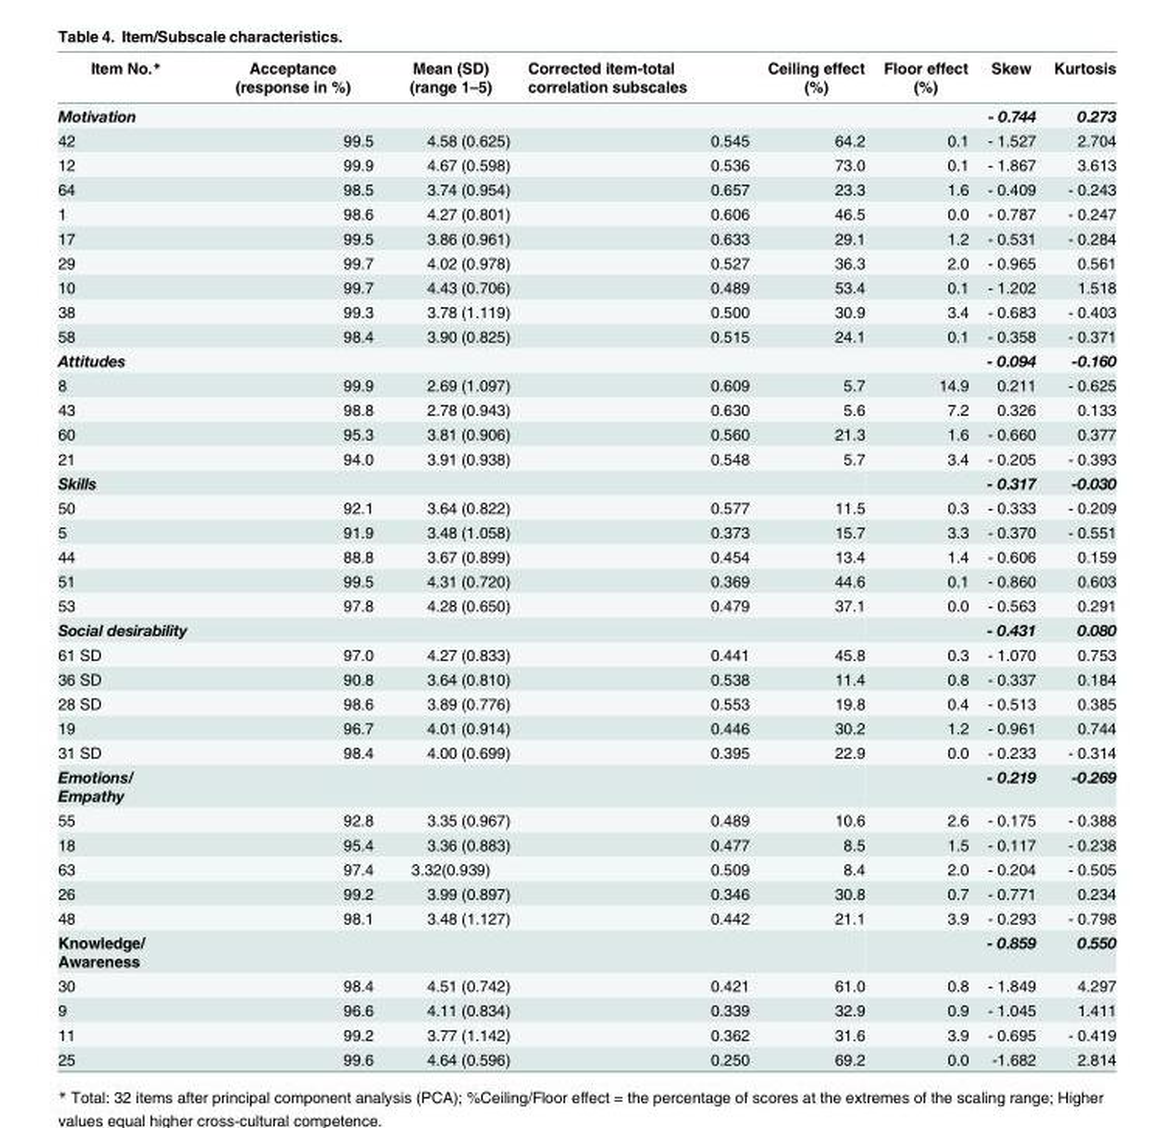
<table><thead><tr><td>Item No.*</td><td>Acceptance (response in %)</td><td>Mean (SD) (range 1–5)</td><td>Corrected item-total correlation subscales</td><td>Ceiling effect (%)</td><td>Floor effect (%)</td><td>Skew</td><td>Kurtosis</td></tr></thead><tbody><tr><td>Motivation</td><td></td><td></td><td></td><td></td><td></td><td>- 0.744</td><td>0.273</td></tr><tr><td>42</td><td>99.5</td><td>4.58 (0.625)</td><td>0.545</td><td>64.2</td><td>0.1</td><td>- 1.527</td><td>2.704</td></tr><tr><td>12</td><td>99.9</td><td>4.67 (0.598)</td><td>0.536</td><td>73.0</td><td>0.1</td><td>- 1.867</td><td>3.613</td></tr><tr><td>64</td><td>98.5</td><td>3.74 (0.954)</td><td>0.657</td><td>23.3</td><td>1.6</td><td>- 0.409</td><td>- 0.243</td></tr><tr><td>1</td><td>98.6</td><td>4.27 (0.801)</td><td>0.606</td><td>46.5</td><td>0.0</td><td>- 0.787</td><td>- 0.247</td></tr><tr><td>17</td><td>99.5</td><td>3.86 (0.961)</td><td>0.633</td><td>29.1</td><td>1.2</td><td>- 0.531</td><td>- 0.284</td></tr><tr><td>29</td><td>99.7</td><td>4.02 (0.978)</td><td>0.527</td><td>36.3</td><td>2.0</td><td>- 0.965</td><td>0.561</td></tr><tr><td>10</td><td>99.7</td><td>4.43 (0.706)</td><td>0.489</td><td>53.4</td><td>0.1</td><td>- 1.202</td><td>1.518</td></tr><tr><td>38</td><td>99.3</td><td>3.78 (1.119)</td><td>0.500</td><td>30.9</td><td>3.4</td><td>- 0.683</td><td>- 0.403</td></tr><tr><td>58</td><td>98.4</td><td>3.90 (0.825)</td><td>0.515</td><td>24.1</td><td>0.1</td><td>- 0.358</td><td>- 0.371</td></tr><tr><td>Attitudes</td><td></td><td></td><td></td><td></td><td></td><td>- 0.094</td><td>-0.160</td></tr><tr><td>8</td><td>99.9</td><td>2.69 (1.097)</td><td>0.609</td><td>5.7</td><td>14.9</td><td>0.211</td><td>- 0.625</td></tr><tr><td>43</td><td>98.8</td><td>2.78 (0.943)</td><td>0.630</td><td>5.6</td><td>7.2</td><td>0.326</td><td>0.133</td></tr><tr><td>60</td><td>95.3</td><td>3.81 (0.906)</td><td>0.560</td><td>21.3</td><td>1.6</td><td>- 0.660</td><td>0.377</td></tr><tr><td>21</td><td>94.0</td><td>3.91 (0.938)</td><td>0.548</td><td>5.7</td><td>3.4</td><td>- 0.205</td><td>- 0.393</td></tr><tr><td>Skills</td><td></td><td></td><td></td><td></td><td></td><td>- 0.317</td><td>-0.030</td></tr><tr><td>50</td><td>92.1</td><td>3.64 (0.822)</td><td>0.577</td><td>11.5</td><td>0.3</td><td>- 0.333</td><td>- 0.209</td></tr><tr><td>5</td><td>91.9</td><td>3.48 (1.058)</td><td>0.373</td><td>15.7</td><td>3.3</td><td>- 0.370</td><td>- 0.551</td></tr><tr><td>44</td><td>88.8</td><td>3.67 (0.899)</td><td>0.454</td><td>13.4</td><td>1.4</td><td>- 0.606</td><td>0.159</td></tr><tr><td>51</td><td>99.5</td><td>4.31 (0.720)</td><td>0.369</td><td>44.6</td><td>0.1</td><td>- 0.860</td><td>0.603</td></tr><tr><td>53</td><td>97.8</td><td>4.28 (0.650)</td><td>0.479</td><td>37.1</td><td>0.0</td><td>- 0.563</td><td>0.291</td></tr><tr><td>Social desirability</td><td></td><td></td><td></td><td></td><td></td><td>- 0.431</td><td>0.080</td></tr><tr><td>61 SD</td><td>97.0</td><td>4.27 (0.833)</td><td>0.441</td><td>45.8</td><td>0.3</td><td>- 1.070</td><td>0.753</td></tr><tr><td>36 SD</td><td>90.8</td><td>3.64 (0.810)</td><td>0.538</td><td>11.4</td><td>0.8</td><td>- 0.337</td><td>0.184</td></tr><tr><td>28 SD</td><td>98.6</td><td>3.89 (0.776)</td><td>0.553</td><td>19.8</td><td>0.4</td><td>- 0.513</td><td>0.385</td></tr><tr><td>19</td><td>96.7</td><td>4.01 (0.914)</td><td>0.446</td><td>30.2</td><td>1.2</td><td>- 0.961</td><td>0.744</td></tr><tr><td>31 SD</td><td>98.4</td><td>4.00 (0.699)</td><td>0.395</td><td>22.9</td><td>0.0</td><td>- 0.233</td><td>- 0.314</td></tr><tr><td>Emotions/ Empathy</td><td></td><td></td><td></td><td></td><td></td><td>- 0.219</td><td>-0.269</td></tr><tr><td>55</td><td>92.8</td><td>3.35 (0.967)</td><td>0.489</td><td>10.6</td><td>2.6</td><td>- 0.175</td><td>- 0.388</td></tr><tr><td>18</td><td>95.4</td><td>3.36 (0.883)</td><td>0.477</td><td>8.5</td><td>1.5</td><td>- 0.117</td><td>- 0.238</td></tr><tr><td>63</td><td>97.4</td><td>3.32(0.939)</td><td>0.509</td><td>8.4</td><td>2.0</td><td>- 0.204</td><td>- 0.505</td></tr><tr><td>26</td><td>99.2</td><td>3.99 (0.897)</td><td>0.346</td><td>30.8</td><td>0.7</td><td>- 0.771</td><td>0.234</td></tr><tr><td>48</td><td>98.1</td><td>3.48 (1.127)</td><td>0.442</td><td>21.1</td><td>3.9</td><td>- 0.293</td><td>- 0.798</td></tr><tr><td>Knowledge/ Awareness</td><td></td><td></td><td></td><td></td><td></td><td>- 0.859</td><td>0.550</td></tr><tr><td>30</td><td>98.4</td><td>4.51 (0.742)</td><td>0.421</td><td>61.0</td><td>0.8</td><td>- 1.849</td><td>4.297</td></tr><tr><td>9</td><td>96.6</td><td>4.11 (0.834)</td><td>0.339</td><td>32.9</td><td>0.9</td><td>- 1.045</td><td>1.411</td></tr><tr><td>11</td><td>99.2</td><td>3.77 (1.142)</td><td>0.362</td><td>31.6</td><td>3.9</td><td>- 0.695</td><td>- 0.419</td></tr><tr><td>25</td><td>99.6</td><td>4.64 (0.596)</td><td>0.250</td><td>69.2</td><td>0.0</td><td>-1.682</td><td>2.814</td></tr></tbody></table>